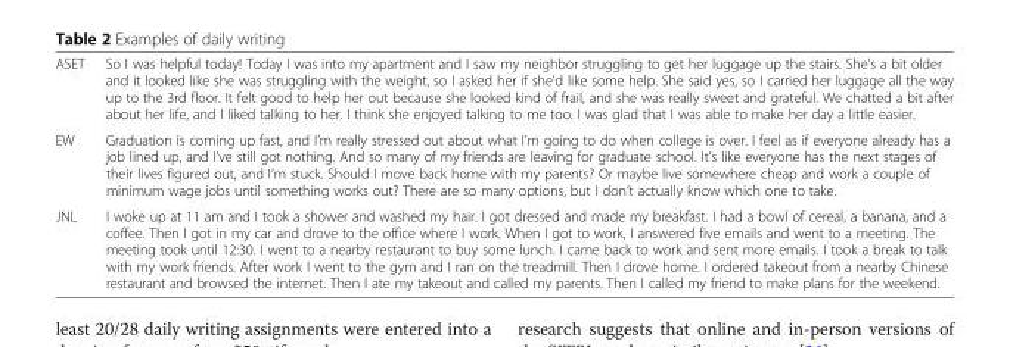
<table><tbody><tr><td>ASET</td><td>So I was helpful today! Today I was into my apartment and I saw my neighbor struggling to get her luggage up the stairs. She’s a bit older and it looked like she was struggling with the weight, so I asked her if she’d like some help. She said yes, so I carried her luggage all the way up to the 3rd floor. It felt good to help her out because she looked kind of frail, and she was really sweet and grateful. We chatted a bit after about her life, and I liked talking to her. I think she enjoyed talking to me too. I was glad that I was able to make her day a little easier.</td></tr><tr><td>EW</td><td>Graduation is coming up fast, and I’m really stressed out about what I’m going to do when college is over. I feel as if everyone already has a job lined up, and I’ve still got nothing. And so many of my friends are leaving for graduate school. It’s like everyone has the next stages of their lives figured out, and I’m stuck. Should I move back home with my parents? Or maybe live somewhere cheap and work a couple of minimum wage jobs until something works out? There are so many options, but I don’t actually know which one to take.</td></tr><tr><td>JNL</td><td>I woke up at 11 am and I took a shower and washed my hair. I got dressed and made my breakfast. I had a bowl of cereal, a banana, and a coffee. Then I got in my car and drove to the office where I work. When I got to work, I answered five emails and went to a meeting. The meeting took until 12:30. I went to a nearby restaurant to buy some lunch. I came back to work and sent more emails. I took a break to talk with my work friends. After work I went to the gym and I ran on the treadmill. Then I drove home. I ordered takeout from a nearby Chinese restaurant and browsed the internet. Then I ate my takeout and called my parents. Then I called my friend to make plans for the weekend.</td></tr></tbody></table>